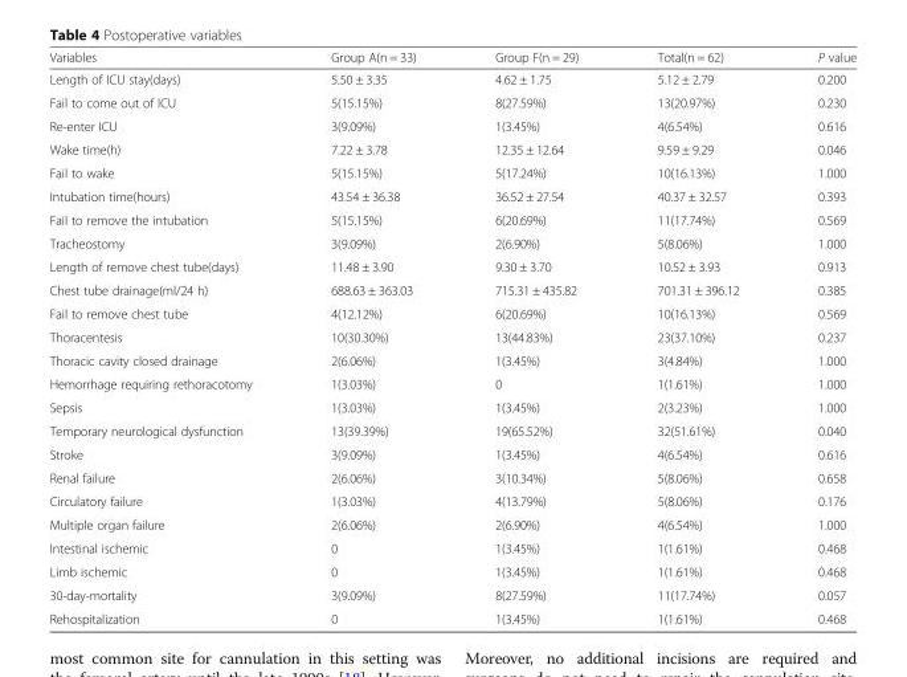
<table><thead><tr><td>Variables</td><td>Group A(n = 33)</td><td>Group F(n = 29)</td><td>Total(n = 62)</td><td>P value</td></tr></thead><tbody><tr><td>Length of ICU stay(days)</td><td>5.50 ± 3.35</td><td>4.62 ± 1.75</td><td>5.12 ± 2.79</td><td>0.200</td></tr><tr><td>Fail to come out of ICU</td><td>5(15.15%)</td><td>8(27.59%)</td><td>13(20.97%)</td><td>0.230</td></tr><tr><td>Re-enter ICU</td><td>3(9.09%)</td><td>1(3.45%)</td><td>4(6.54%)</td><td>0.616</td></tr><tr><td>Wake time(h)</td><td>7.22 ± 3.78</td><td>12.35 ± 12.64</td><td>9.59 ± 9.29</td><td>0.046</td></tr><tr><td>Fail to wake</td><td>5(15.15%)</td><td>5(17.24%)</td><td>10(16.13%)</td><td>1.000</td></tr><tr><td>Intubation time(hours)</td><td>43.54 ± 36.38</td><td>36.52 ± 27.54</td><td>40.37 ± 32.57</td><td>0.393</td></tr><tr><td>Fail to remove the intubation</td><td>5(15.15%)</td><td>6(20.69%)</td><td>11(17.74%)</td><td>0.569</td></tr><tr><td>Tracheostomy</td><td>3(9.09%)</td><td>2(6.90%)</td><td>5(8.06%)</td><td>1.000</td></tr><tr><td>Length of remove chest tube(days)</td><td>11.48 ± 3.90</td><td>9.30 ± 3.70</td><td>10.52 ± 3.93</td><td>0.913</td></tr><tr><td>Chest tube drainage(ml/24 h)</td><td>688.63 ± 363.03</td><td>715.31 ± 435.82</td><td>701.31 ± 396.12</td><td>0.385</td></tr><tr><td>Fail to remove chest tube</td><td>4(12.12%)</td><td>6(20.69%)</td><td>10(16.13%)</td><td>0.569</td></tr><tr><td>Thoracentesis</td><td>10(30.30%)</td><td>13(44.83%)</td><td>23(37.10%)</td><td>0.237</td></tr><tr><td>Thoracic cavity closed drainage</td><td>2(6.06%)</td><td>1(3.45%)</td><td>3(4.84%)</td><td>1.000</td></tr><tr><td>Hemorrhage requiring rethoracotomy</td><td>1(3.03%)</td><td>0</td><td>1(1.61%)</td><td>1.000</td></tr><tr><td>Sepsis</td><td>1(3.03%)</td><td>1(3.45%)</td><td>2(3.23%)</td><td>1.000</td></tr><tr><td>Temporary neurological dysfunction</td><td>13(39.39%)</td><td>19(65.52%)</td><td>32(51.61%)</td><td>0.040</td></tr><tr><td>Stroke</td><td>3(9.09%)</td><td>1(3.45%)</td><td>4(6.54%)</td><td>0.616</td></tr><tr><td>Renal failure</td><td>2(6.06%)</td><td>3(10.34%)</td><td>5(8.06%)</td><td>0.658</td></tr><tr><td>Circulatory failure</td><td>1(3.03%)</td><td>4(13.79%)</td><td>5(8.06%)</td><td>0.176</td></tr><tr><td>Multiple organ failure</td><td>2(6.06%)</td><td>2(6.90%)</td><td>4(6.54%)</td><td>1.000</td></tr><tr><td>Intestinal ischemic</td><td>0</td><td>1(3.45%)</td><td>1(1.61%)</td><td>0.468</td></tr><tr><td>Limb ischemic</td><td>0</td><td>1(3.45%)</td><td>1(1.61%)</td><td>0.468</td></tr><tr><td>30-day-mortality</td><td>3(9.09%)</td><td>8(27.59%)</td><td>11(17.74%)</td><td>0.057</td></tr><tr><td>Rehospitalization</td><td>0</td><td>1(3.45%)</td><td>1(1.61%)</td><td>0.468</td></tr></tbody></table>